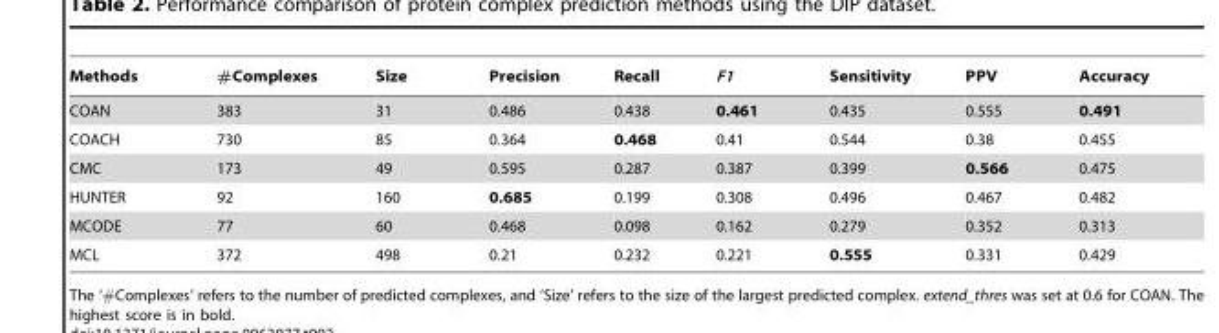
<table><thead><tr><td>Methods</td><td>#Complexes</td><td>Size</td><td>Precision</td><td>Recall</td><td>F1</td><td>Sensitivity</td><td>PPV</td><td>Accuracy</td></tr></thead><tbody><tr><td>COAN</td><td>383</td><td>31</td><td>0.486</td><td>0.438</td><td>0.461</td><td>0.435</td><td>0.555</td><td>0.491</td></tr><tr><td>COACH</td><td>730</td><td>85</td><td>0.364</td><td>0.468</td><td>0.41</td><td>0.544</td><td>0.38</td><td>0.455</td></tr><tr><td>CMC</td><td>173</td><td>49</td><td>0.595</td><td>0.287</td><td>0.387</td><td>0.399</td><td>0.566</td><td>0.475</td></tr><tr><td>HUNTER</td><td>92</td><td>160</td><td>0.685</td><td>0.199</td><td>0.308</td><td>0.496</td><td>0.467</td><td>0.482</td></tr><tr><td>MCODE</td><td>77</td><td>60</td><td>0.468</td><td>0.098</td><td>0.162</td><td>0.279</td><td>0.352</td><td>0.313</td></tr><tr><td>MCL</td><td>372</td><td>498</td><td>0.21</td><td>0.232</td><td>0.221</td><td>0.555</td><td>0.331</td><td>0.429</td></tr></tbody></table>